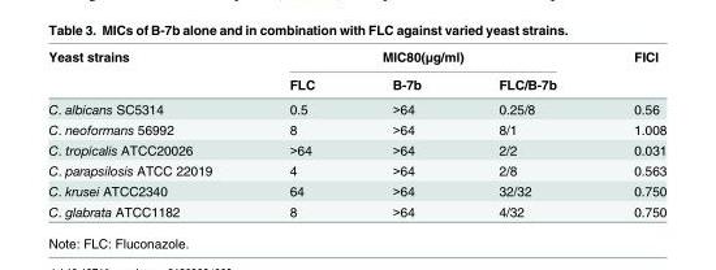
<table><thead><tr><td rowspan="2">Yeast strains</td><td colspan="3">MIC80(μg/ml)</td><td rowspan="2">FICI</td></tr><tr><td>FLC</td><td>B-7b</td><td>FLC/B-7b</td></tr></thead><tbody><tr><td>C. albicans SC5314</td><td>0.5</td><td>&gt;64</td><td>0.25/8</td><td>0.56</td></tr><tr><td>C. neoformans 56992</td><td>8</td><td>&gt;64</td><td>8/1</td><td>1.008</td></tr><tr><td>C. tropicalis ATCC20026</td><td>&gt;64</td><td>&gt;64</td><td>2/2</td><td>0.031</td></tr><tr><td>C. parapsilosis ATCC 22019</td><td>4</td><td>&gt;64</td><td>2/8</td><td>0.563</td></tr><tr><td>C. krusei ATCC2340</td><td>64</td><td>&gt;64</td><td>32/32</td><td>0.750</td></tr><tr><td>C. glabrata ATCC1182</td><td>8</td><td>&gt;64</td><td>4/32</td><td>0.750</td></tr></tbody></table>